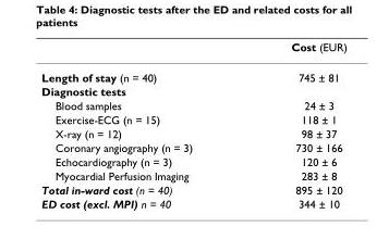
<table><thead><tr><td></td><td>Cost (EUR)</td></tr></thead><tbody><tr><td>Length of stay (n = 40)</td><td>745 ± 81</td></tr><tr><td colspan="2">Diagnostic tests</td></tr><tr><td>Blood samples</td><td>24 ± 3</td></tr><tr><td>Exercise-ECG (n = 15)</td><td>118 ± 1</td></tr><tr><td>X-ray (n = 12)</td><td>98 ± 37</td></tr><tr><td>Coronary angiography (n = 3)</td><td>730 ± 166</td></tr><tr><td>Echocardiography (n = 3)</td><td>120 ± 6</td></tr><tr><td>Myocardial Perfusion Imaging</td><td>283 ± 8</td></tr><tr><td>Total in-ward cost (n = 40)</td><td>895 ± 120</td></tr><tr><td>ED cost (excl. MPI) n = 40</td><td>344 ± 10</td></tr></tbody></table>